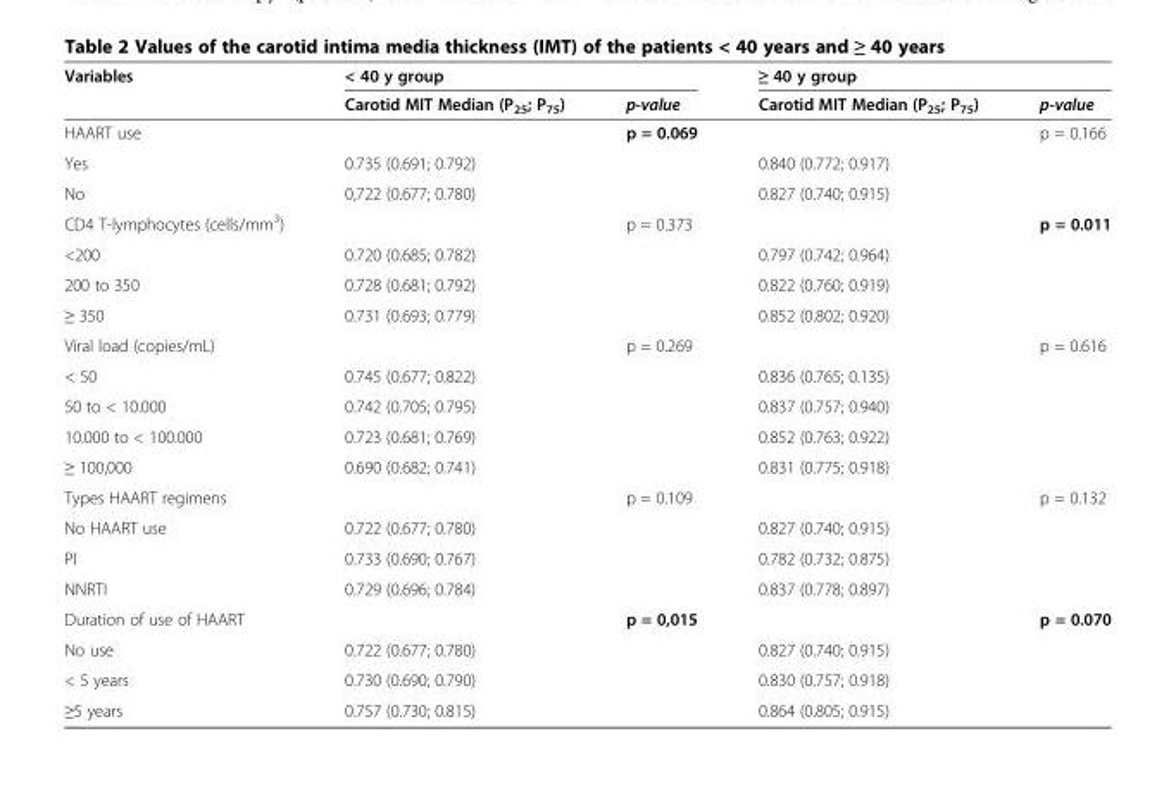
<table><thead><tr><td rowspan="2">Variables</td><td colspan="2">&lt; 40 y group</td><td colspan="2">≥ 40 y group</td></tr><tr><td>Carotid MIT Median (P<sub>25</sub>; P<sub>75</sub>)</td><td>p-value</td><td>Carotid MIT Median (P<sub>25</sub>; P<sub>75</sub>)</td><td>p-value</td></tr></thead><tbody><tr><td>HAART use</td><td></td><td>p = 0.069</td><td></td><td>p = 0.166</td></tr><tr><td>Yes</td><td>0.735 (0.691; 0.792)</td><td></td><td>0.840 (0.772; 0.917)</td><td></td></tr><tr><td>No</td><td>0,722 (0.677; 0.780)</td><td></td><td>0.827 (0.740; 0.915)</td><td></td></tr><tr><td>CD4 T-lymphocytes (cells/mm<sup>3</sup>)</td><td></td><td>p = 0.373</td><td></td><td>p = 0.011</td></tr><tr><td>&lt;200</td><td>0.720 (0.685; 0.782)</td><td></td><td>0.797 (0.742; 0.964)</td><td></td></tr><tr><td>200 to 350</td><td>0.728 (0.681; 0.792)</td><td></td><td>0.822 (0.760; 0.919)</td><td></td></tr><tr><td>≥ 350</td><td>0.731 (0.693; 0.779)</td><td></td><td>0.852 (0.802; 0.920)</td><td></td></tr><tr><td>Viral load (copies/mL)</td><td></td><td>p = 0.269</td><td></td><td>p = 0.616</td></tr><tr><td>&lt; 50</td><td>0.745 (0.677; 0.822)</td><td></td><td>0.836 (0.765; 0.135)</td><td></td></tr><tr><td>50 to &lt; 10.000</td><td>0.742 (0.705; 0.795)</td><td></td><td>0.837 (0.757; 0.940)</td><td></td></tr><tr><td>10.000 to &lt; 100.000</td><td>0.723 (0.681; 0.769)</td><td></td><td>0.852 (0.763; 0.922)</td><td></td></tr><tr><td>≥ 100,000</td><td>0.690 (0.682; 0.741)</td><td></td><td>0.831 (0.775; 0.918)</td><td></td></tr><tr><td>Types HAART regimens</td><td></td><td>p = 0.109</td><td></td><td>p = 0.132</td></tr><tr><td>No HAART use</td><td>0.722 (0.677; 0.780)</td><td></td><td>0.827 (0.740; 0.915)</td><td></td></tr><tr><td>PI</td><td>0.733 (0.690; 0.767)</td><td></td><td>0.782 (0.732; 0.875)</td><td></td></tr><tr><td>NNRTI</td><td>0.729 (0.696; 0.784)</td><td></td><td>0.837 (0.778; 0.897)</td><td></td></tr><tr><td>Duration of use of HAART</td><td></td><td>p = 0,015</td><td></td><td>p = 0.070</td></tr><tr><td>No use</td><td>0.722 (0.677; 0.780)</td><td></td><td>0.827 (0.740; 0.915)</td><td></td></tr><tr><td>&lt; 5 years</td><td>0.730 (0.690; 0.790)</td><td></td><td>0.830 (0.757; 0.918)</td><td></td></tr><tr><td>≥5 years</td><td>0.757 (0.730; 0.815)</td><td></td><td>0.864 (0.805; 0.915)</td><td></td></tr></tbody></table>